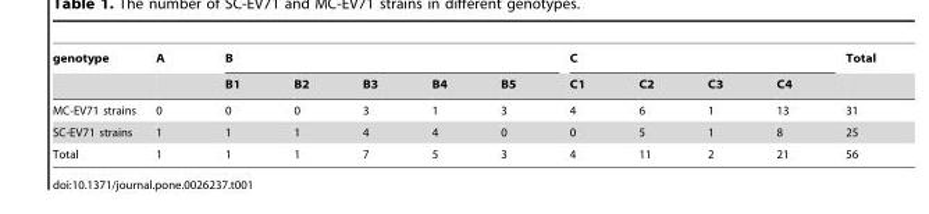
<table><thead><tr><td rowspan="2">genotype</td><td rowspan="2">A</td><td colspan="5">B</td><td colspan="4">C</td><td rowspan="2">Total</td></tr><tr><td>B1</td><td>B2</td><td>B3</td><td>B4</td><td>B5</td><td>C1</td><td>C2</td><td>C3</td><td>C4</td></tr></thead><tbody><tr><td>MC-EV71 strains</td><td>0</td><td>0</td><td>0</td><td>3</td><td>1</td><td>3</td><td>4</td><td>6</td><td>1</td><td>13</td><td>31</td></tr><tr><td>SC-EV71 strains</td><td>1</td><td>1</td><td>1</td><td>4</td><td>4</td><td>0</td><td>0</td><td>5</td><td>1</td><td>8</td><td>25</td></tr><tr><td>Total</td><td>1</td><td>1</td><td>1</td><td>7</td><td>5</td><td>3</td><td>4</td><td>11</td><td>2</td><td>21</td><td>56</td></tr></tbody></table>